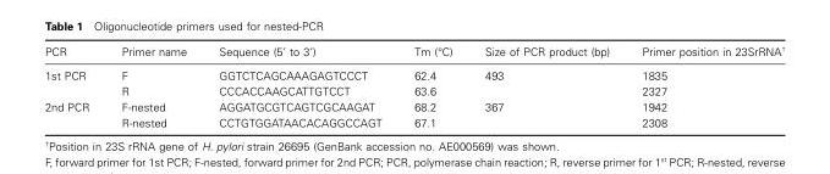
<table><thead><tr><td>PCR</td><td>Primer name</td><td>Sequence (5’ to 3’)</td><td>Tm (°C)</td><td>Size of PCR product (bp)</td><td>Primer position in 23SrRNA†</td></tr></thead><tbody><tr><td rowspan="2">1st PCR</td><td>F</td><td>GGTCTCAGCAAAGAGTCCCT</td><td>62.4</td><td>493</td><td>1835</td></tr><tr><td>R</td><td>CCCACCAAGCATTGTCCT</td><td>63.6</td><td></td><td>2327</td></tr><tr><td rowspan="2">2nd PCR</td><td>F-nested</td><td>AGGATGCGTCAGTCGCAAGAT</td><td>68.2</td><td>367</td><td>1942</td></tr><tr><td>R-nested</td><td>CCTGTGGATAACACAGGCCAGT</td><td>67.1</td><td></td><td>2308</td></tr></tbody></table>